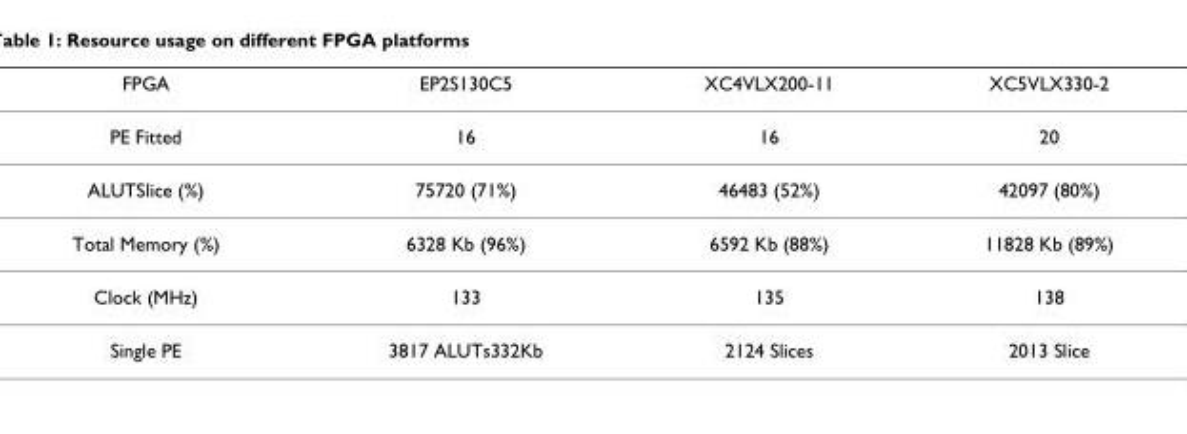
<table><thead><tr><td>FPGA</td><td>EP2S130C5</td><td>XC4VLX200-11</td><td>XC5VLX330-2</td></tr></thead><tbody><tr><td>PE Fitted</td><td>16</td><td>16</td><td>20</td></tr><tr><td>ALUTSlice (%)</td><td>75720 (71%)</td><td>46483 (52%)</td><td>42097 (80%)</td></tr><tr><td>Total Memory (%)</td><td>6328 Kb (96%)</td><td>6592 Kb (88%)</td><td>11828 Kb (89%)</td></tr><tr><td>Clock (MHz)</td><td>133</td><td>135</td><td>138</td></tr><tr><td>Single PE</td><td>3817 ALUTs332Kb</td><td>2124 Slices</td><td>2013 Slice</td></tr></tbody></table>